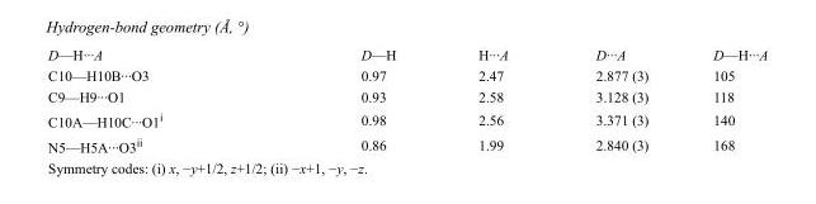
<table><tbody><tr><td>D—H···A</td><td>D—H</td><td>H···A</td><td>D···A</td><td>D—H···A</td></tr><tr><td>C10—H10B···O3</td><td>0.97</td><td>2.47</td><td>2.877 (3)</td><td>105</td></tr><tr><td>C9—H9···O1</td><td>0.93</td><td>2.58</td><td>3.128 (3)</td><td>118</td></tr><tr><td>C10A—H10C···O1<sup>i</sup></td><td>0.98</td><td>2.56</td><td>3.371 (3)</td><td>140</td></tr><tr><td>N5—H5A···O3<sup>ii</sup></td><td>0.86</td><td>1.99</td><td>2.840 (3)</td><td>168</td></tr></tbody></table>